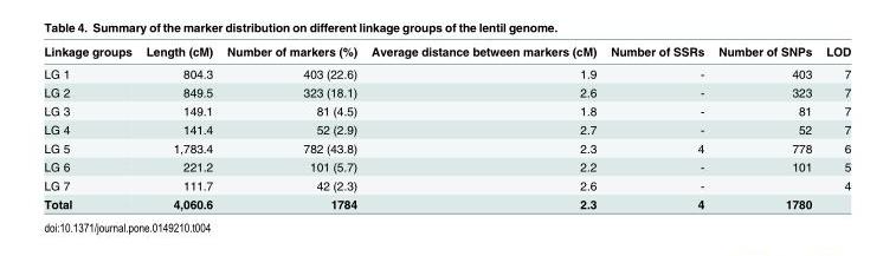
<table><thead><tr><td>Linkage groups</td><td>Length (cM)</td><td>Number of markers (%)</td><td>Average distance between markers (cM)</td><td>Number of SSRs</td><td>Number of SNPs</td><td>LOD</td></tr></thead><tbody><tr><td>LG 1</td><td>804.3</td><td>403 (22.6)</td><td>1.9</td><td>-</td><td>403</td><td>7</td></tr><tr><td>LG 2</td><td>849.5</td><td>323 (18.1)</td><td>2.6</td><td>-</td><td>323</td><td>7</td></tr><tr><td>LG 3</td><td>149.1</td><td>81 (4.5)</td><td>1.8</td><td>-</td><td>81</td><td>7</td></tr><tr><td>LG 4</td><td>141.4</td><td>52 (2.9)</td><td>2.7</td><td>-</td><td>52</td><td>7</td></tr><tr><td>LG 5</td><td>1,783.4</td><td>782 (43.8)</td><td>2.3</td><td>4</td><td>778</td><td>6</td></tr><tr><td>LG 6</td><td>221.2</td><td>101 (5.7)</td><td>2.2</td><td>-</td><td>101</td><td>5</td></tr><tr><td>LG 7</td><td>111.7</td><td>42 (2.3)</td><td>2.6</td><td>-</td><td></td><td>4</td></tr><tr><td>Total</td><td>4,060.6</td><td>1784</td><td>2.3</td><td>4</td><td>1780</td><td></td></tr></tbody></table>